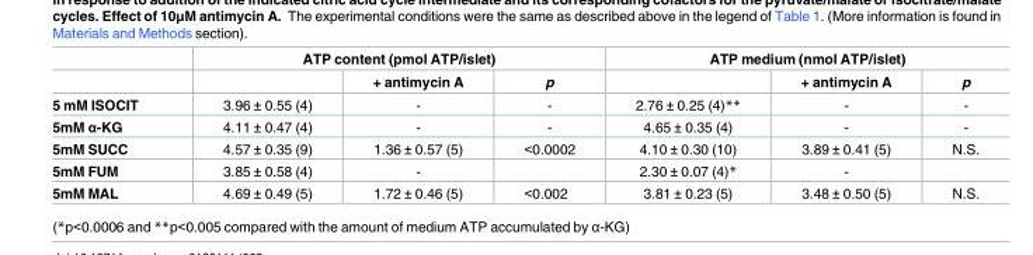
<table><thead><tr><td rowspan="2"></td><td colspan="3">ATP content (pmol ATP/islet)</td><td colspan="3">ATP medium (nmol ATP/islet)</td></tr><tr><td></td><td>+ antimycin A</td><td>p</td><td></td><td>+ antimycin A</td><td>p</td></tr></thead><tbody><tr><td>5 mM ISOCIT</td><td>3.96 ± 0.55 (4)</td><td>-</td><td>-</td><td>2.76 ± 0.25 (4)**</td><td>-</td><td>-</td></tr><tr><td>5mM α-KG</td><td>4.11 ± 0.47 (4)</td><td>-</td><td>-</td><td>4.65 ± 0.35 (4)</td><td>-</td><td>-</td></tr><tr><td>5mM SUCC</td><td>4.57 ± 0.35 (9)</td><td>1.36 ± 0.57 (5)</td><td>&lt;0.0002</td><td>4.10 ± 0.30 (10)</td><td>3.89 ± 0.41 (5)</td><td>N.S.</td></tr><tr><td>5mM FUM</td><td>3.85 ± 0.58 (4)</td><td>-</td><td></td><td>2.30 ± 0.07 (4)*</td><td>-</td><td></td></tr><tr><td>5mM MAL</td><td>4.69 ± 0.49 (5)</td><td>1.72 ± 0.46 (5)</td><td>&lt;0.002</td><td>3.81 ± 0.23 (5)</td><td>3.48 ± 0.50 (5)</td><td>N.S.</td></tr></tbody></table>